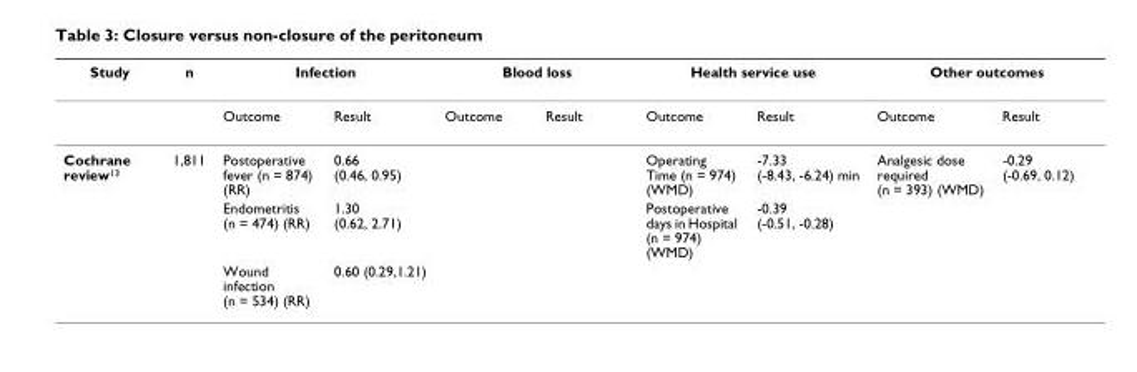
<table><thead><tr><td rowspan="2">Study</td><td rowspan="2">n</td><td colspan="2">Infection</td><td colspan="2">Blood loss</td><td colspan="2">Health service use</td><td colspan="2">Other outcomes</td></tr><tr><td>Outcome</td><td>Result</td><td>Outcome</td><td>Result</td><td>Outcome</td><td>Result</td><td>Outcome</td><td>Result</td></tr></thead><tbody><tr><td rowspan="3">Cochrane review<sup>13</sup></td><td>1,811</td><td>Postoperative fever (n = 874) (RR)</td><td>0.66 (0.46, 0.95)</td><td></td><td></td><td>Operating Time (n = 974) (WMD)</td><td>-7.33 (-8.43, -6.24) min</td><td>Analgesic dose required (n = 393) (WMD)</td><td>-0.29 (-0.69, 0.12)</td></tr><tr><td></td><td>Endometritis (n = 474) (RR)</td><td>1.30 (0.62, 2.71)</td><td></td><td></td><td>Postoperative days in Hospital (n = 974) (WMD)</td><td>-0.39 (-0.51, -0.28)</td><td></td><td></td></tr><tr><td></td><td>Wound infection (n = 534) (RR)</td><td>0.60 (0.29,1.21)</td><td></td><td></td><td></td><td></td><td></td><td></td></tr></tbody></table>